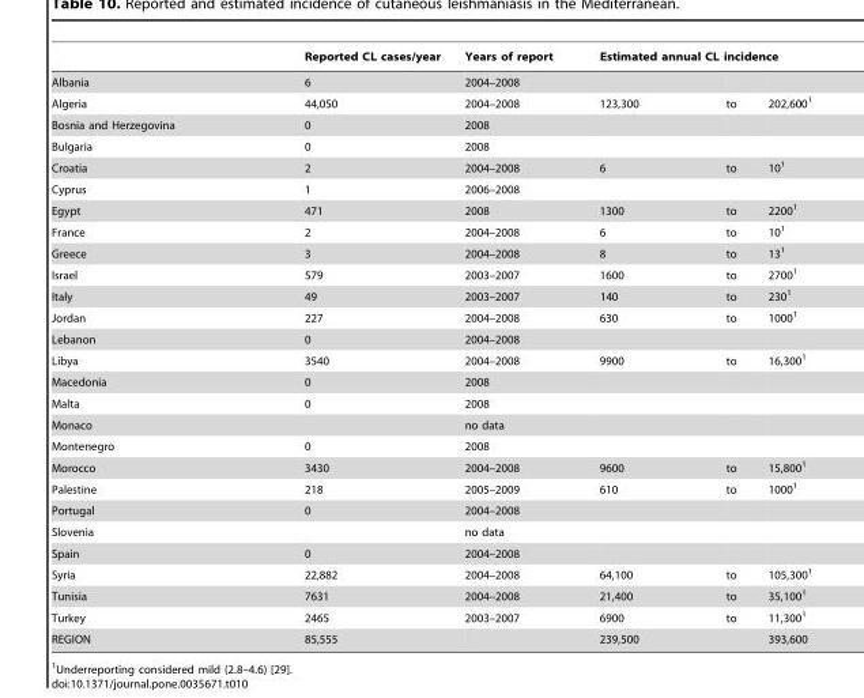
<table><thead><tr><td rowspan="2">Albania</td><td rowspan="2">Reported CL cases/year 6</td><td rowspan="2">Years of report 2004–2008</td><td colspan="3">Estimated annual CL incidence</td></tr><tr><td></td><td></td><td></td></tr></thead><tbody><tr><td>Algeria</td><td>44,050</td><td>2004–2008</td><td>123,300</td><td>to</td><td>202,600<sup>1</sup></td></tr><tr><td>Bosnia and Herzegovina</td><td>0</td><td>2008</td><td></td><td></td><td></td></tr><tr><td>Bulgaria</td><td>0</td><td>2008</td><td></td><td></td><td></td></tr><tr><td>Croatia</td><td>2</td><td>2004–2008</td><td>6</td><td>to</td><td>10<sup>1</sup></td></tr><tr><td>Cyprus</td><td>1</td><td>2006–2008</td><td></td><td></td><td></td></tr><tr><td>Egypt</td><td>471</td><td>2008</td><td>1300</td><td>to</td><td>2200<sup>1</sup></td></tr><tr><td>France</td><td>2</td><td>2004–2008</td><td>6</td><td>to</td><td>10<sup>1</sup></td></tr><tr><td>Greece</td><td>3</td><td>2004–2008</td><td>8</td><td>to</td><td>13<sup>1</sup></td></tr><tr><td>Israel</td><td>579</td><td>2003–2007</td><td>1600</td><td>to</td><td>2700<sup>1</sup></td></tr><tr><td>Italy</td><td>49</td><td>2003–2007</td><td>140</td><td>to</td><td>230<sup>1</sup></td></tr><tr><td>Jordan</td><td>227</td><td>2004–2008</td><td>630</td><td>to</td><td>1000<sup>1</sup></td></tr><tr><td>Lebanon</td><td>0</td><td>2004–2008</td><td></td><td></td><td></td></tr><tr><td>Libya</td><td>3540</td><td>2004–2008</td><td>9900</td><td>to</td><td>16,300<sup>1</sup></td></tr><tr><td>Macedonia</td><td>0</td><td>2008</td><td></td><td></td><td></td></tr><tr><td>Malta</td><td>0</td><td>2008</td><td></td><td></td><td></td></tr><tr><td>Monaco</td><td></td><td>no data</td><td></td><td></td><td></td></tr><tr><td>Montenegro</td><td>0</td><td>2008</td><td></td><td></td><td></td></tr><tr><td>Morocco</td><td>3430</td><td>2004–2008</td><td>9600</td><td>to</td><td>15,800<sup>1</sup></td></tr><tr><td>Palestine</td><td>218</td><td>2005–2009</td><td>610</td><td>to</td><td>1000<sup>1</sup></td></tr><tr><td>Portugal</td><td>0</td><td>2004–2008</td><td></td><td></td><td></td></tr><tr><td>Slovenia</td><td></td><td>no data</td><td></td><td></td><td></td></tr><tr><td>Spain</td><td>0</td><td>2004–2008</td><td></td><td></td><td></td></tr><tr><td>Syria</td><td>22,882</td><td>2004–2008</td><td>64,100</td><td>to</td><td>105,300<sup>1</sup></td></tr><tr><td>Tunisia</td><td>7631</td><td>2004–2008</td><td>21,400</td><td>to</td><td>35,100<sup>1</sup></td></tr><tr><td>Turkey</td><td>2465</td><td>2003–2007</td><td>6900</td><td>to</td><td>11,300<sup>1</sup></td></tr><tr><td>REGION</td><td>85,555</td><td></td><td>239,500</td><td></td><td>393,600</td></tr></tbody></table>